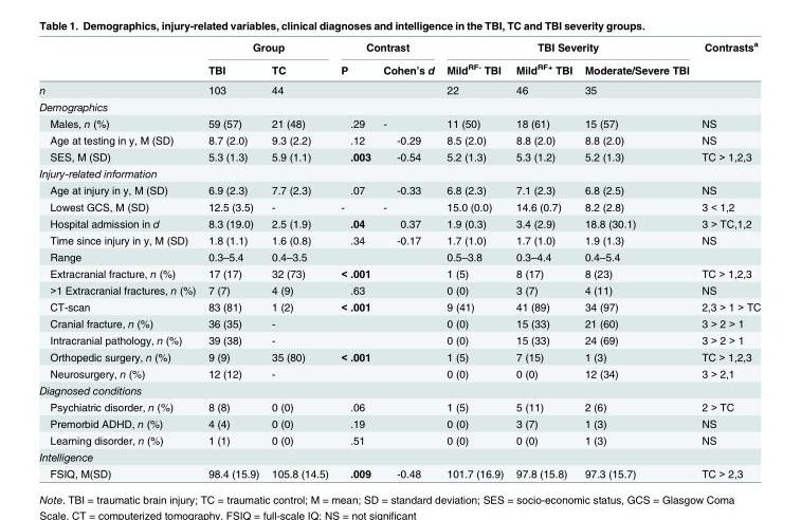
<table><thead><tr><td rowspan="2"></td><td colspan="2">Group</td><td colspan="2">Contrast</td><td colspan="3">TBI Severity</td><td rowspan="2">Contrasts<sup>a</sup></td></tr><tr><td>TBI</td><td>TC</td><td>P</td><td>Cohen’s d</td><td>Mild<sup>RF-</sup> TBI</td><td>Mild<sup>RF+</sup> TBI</td><td>Moderate/Severe TBI</td></tr></thead><tbody><tr><td>n</td><td>103</td><td>44</td><td></td><td></td><td>22</td><td>46</td><td>35</td><td></td></tr><tr><td colspan="9">Demographics</td></tr><tr><td>Males, n (%)</td><td>59 (57)</td><td>21 (48)</td><td>.29</td><td>-</td><td>11 (50)</td><td>18 (61)</td><td>15 (57)</td><td>NS</td></tr><tr><td>Age at testing in y, M (SD)</td><td>8.7 (2.0)</td><td>9.3 (2.2)</td><td>.12</td><td>-0.29</td><td>8.5 (2.0)</td><td>8.8 (2.0)</td><td>8.8 (2.0)</td><td>NS</td></tr><tr><td>SES, M (SD)</td><td>5.3 (1.3)</td><td>5.9 (1.1)</td><td>.003</td><td>-0.54</td><td>5.2 (1.3)</td><td>5.3 (1.2)</td><td>5.2 (1.3)</td><td>TC &gt; 1,2,3</td></tr><tr><td colspan="9">Injury-related information</td></tr><tr><td>Age at injury in y, M (SD)</td><td>6.9 (2.3)</td><td>7.7 (2.3)</td><td>.07</td><td>-0.33</td><td>6.8 (2.3)</td><td>7.1 (2.3)</td><td>6.8 (2.5)</td><td>NS</td></tr><tr><td>Lowest GCS, M (SD)</td><td>12.5 (3.5)</td><td>-</td><td>-</td><td>-</td><td>15.0 (0.0)</td><td>14.6 (0.7)</td><td>8.2 (2.8)</td><td>3 &lt; 1,2</td></tr><tr><td>Hospital admission in d</td><td>8.3 (19.0)</td><td>2.5 (1.9)</td><td>.04</td><td>0.37</td><td>1.9 (0.3)</td><td>3.4 (2.9)</td><td>18.8 (30.1)</td><td>3 &gt; TC,1,2</td></tr><tr><td>Time since injury in y, M (SD)</td><td>1.8 (1.1)</td><td>1.6 (0.8)</td><td>.34</td><td>-0.17</td><td>1.7 (1.0)</td><td>1.7 (1.0)</td><td>1.9 (1.3)</td><td>NS</td></tr><tr><td>Range</td><td>0.3–5.4</td><td>0.4–3.5</td><td></td><td></td><td>0.5–3.8</td><td>0.3–4.4</td><td>0.4–5.4</td><td></td></tr><tr><td>Extracranial fracture, n (%)</td><td>17 (17)</td><td>32 (73)</td><td>&lt; .001</td><td></td><td>1 (5)</td><td>8 (17)</td><td>8 (23)</td><td>TC &gt; 1,2,3</td></tr><tr><td>&gt;1 Extracranial fractures, n (%)</td><td>7 (7)</td><td>4 (9)</td><td>.63</td><td></td><td>0 (0)</td><td>3 (7)</td><td>4 (11)</td><td>NS</td></tr><tr><td>CT-scan</td><td>83 (81)</td><td>1 (2)</td><td>&lt; .001</td><td></td><td>9 (41)</td><td>41 (89)</td><td>34 (97)</td><td>2,3 &gt; 1 &gt; TC</td></tr><tr><td>Cranial fracture, n (%)</td><td>36 (35)</td><td>-</td><td></td><td></td><td>0 (0)</td><td>15 (33)</td><td>21 (60)</td><td>3 &gt; 2 &gt; 1</td></tr><tr><td>Intracranial pathology, n (%)</td><td>39 (38)</td><td>-</td><td></td><td></td><td>0 (0)</td><td>15 (33)</td><td>24 (69)</td><td>3 &gt; 2 &gt; 1</td></tr><tr><td>Orthopedic surgery, n (%)</td><td>9 (9)</td><td>35 (80)</td><td>&lt; .001</td><td></td><td>1 (5)</td><td>7 (15)</td><td>1 (3)</td><td>TC &gt; 1,2,3</td></tr><tr><td>Neurosurgery, n (%)</td><td>12 (12)</td><td>-</td><td></td><td></td><td>0 (0)</td><td>0 (0)</td><td>12 (34)</td><td>3 &gt; 2,1</td></tr><tr><td colspan="9">Diagnosed conditions</td></tr><tr><td>Psychiatric disorder, n (%)</td><td>8 (8)</td><td>0 (0)</td><td>.06</td><td></td><td>1 (5)</td><td>5 (11)</td><td>2 (6)</td><td>2 &gt; TC</td></tr><tr><td>Premorbid ADHD, n (%)</td><td>4 (4)</td><td>0 (0)</td><td>.19</td><td></td><td>0 (0)</td><td>3 (7)</td><td>1 (3)</td><td>NS</td></tr><tr><td>Learning disorder, n (%)</td><td>1 (1)</td><td>0 (0)</td><td>.51</td><td></td><td>0 (0)</td><td>0 (0)</td><td>1 (3)</td><td>NS</td></tr><tr><td colspan="9">Intelligence</td></tr><tr><td>FSIQ, M(SD)</td><td>98.4 (15.9)</td><td>105.8 (14.5)</td><td>.009</td><td>-0.48</td><td>101.7 (16.9)</td><td>97.8 (15.8)</td><td>97.3 (15.7)</td><td>TC &gt; 2,3</td></tr></tbody></table>